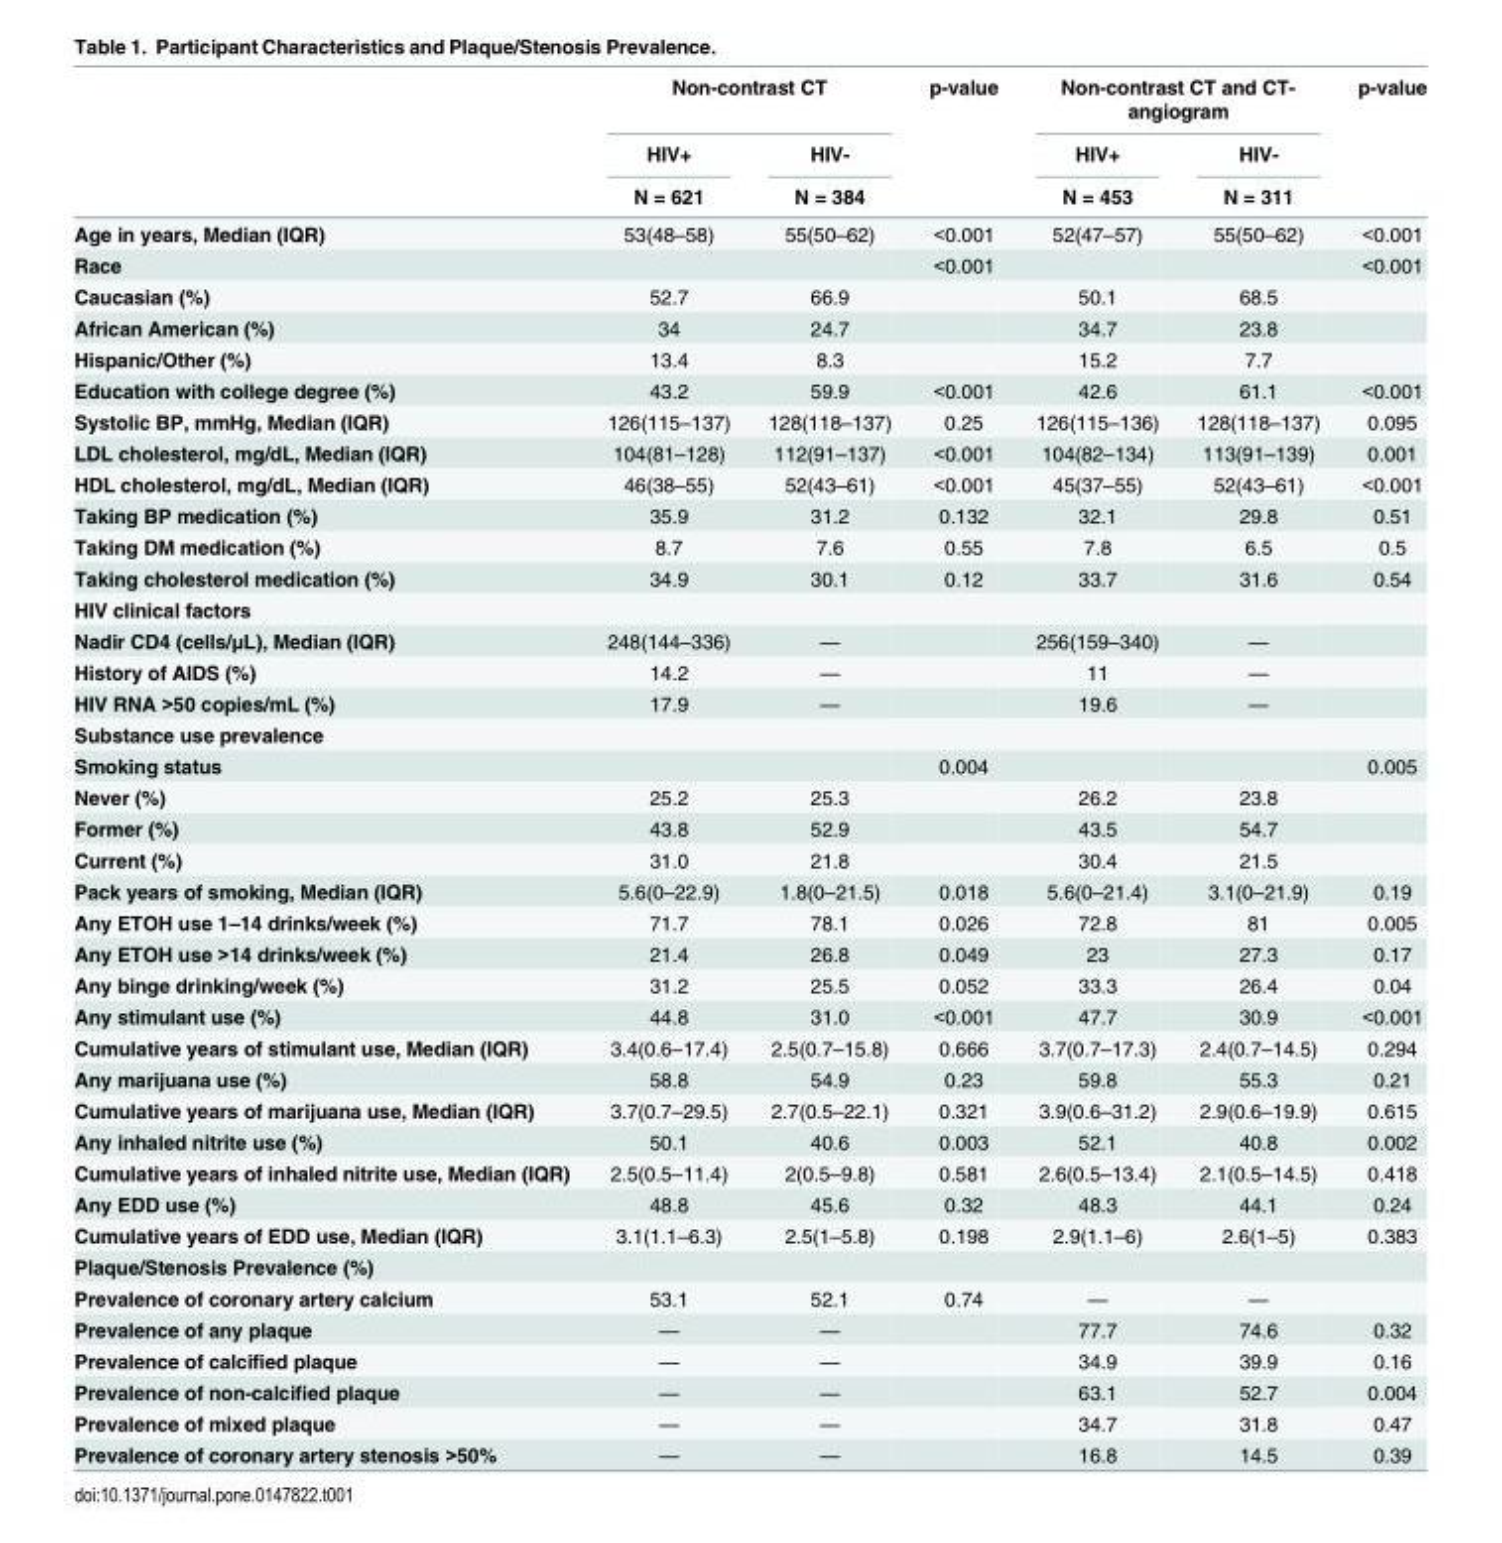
<table><thead><tr><td rowspan="3"></td><td colspan="2">Non-contrast CT</td><td rowspan="3">p-value</td><td colspan="2">Non-contrast CT and CT- angiogram</td><td rowspan="3">p-value</td></tr><tr><td rowspan="2">HIV+ N = 621</td><td rowspan="2">HIV- N = 384</td><td rowspan="2">HIV+ N = 453</td><td rowspan="2">HIV- N = 311</td></tr><tr></tr></thead><tbody><tr><td>Age in years, Median (IQR)</td><td>53(48–58)</td><td>55(50–62)</td><td>&lt;0.001</td><td>52(47–57)</td><td>55(50–62)</td><td>&lt;0.001</td></tr><tr><td>Race</td><td></td><td></td><td>&lt;0.001</td><td></td><td></td><td>&lt;0.001</td></tr><tr><td>Caucasian (%)</td><td>52.7</td><td>66.9</td><td></td><td>50.1</td><td>68.5</td><td></td></tr><tr><td>African American (%)</td><td>34</td><td>24.7</td><td></td><td>34.7</td><td>23.8</td><td></td></tr><tr><td>Hispanic/Other (%)</td><td>13.4</td><td>8.3</td><td></td><td>15.2</td><td>7.7</td><td></td></tr><tr><td>Education with college degree (%)</td><td>43.2</td><td>59.9</td><td>&lt;0.001</td><td>42.6</td><td>61.1</td><td>&lt;0.001</td></tr><tr><td>Systolic BP, mmHg, Median (IQR)</td><td>126(115–137)</td><td>128(118–137)</td><td>0.25</td><td>126(115–136)</td><td>128(118–137)</td><td>0.095</td></tr><tr><td>LDL cholesterol, mg/dL, Median (IQR)</td><td>104(81–128)</td><td>112(91–137)</td><td>&lt;0.001</td><td>104(82–134)</td><td>113(91–139)</td><td>0.001</td></tr><tr><td>HDL cholesterol, mg/dL, Median (IQR)</td><td>46(38–55)</td><td>52(43–61)</td><td>&lt;0.001</td><td>45(37–55)</td><td>52(43–61)</td><td>&lt;0.001</td></tr><tr><td>Taking BP medication (%)</td><td>35.9</td><td>31.2</td><td>0.132</td><td>32.1</td><td>29.8</td><td>0.51</td></tr><tr><td>Taking DM medication (%)</td><td>8.7</td><td>7.6</td><td>0.55</td><td>7.8</td><td>6.5</td><td>0.5</td></tr><tr><td>Taking cholesterol medication (%)</td><td>34.9</td><td>30.1</td><td>0.12</td><td>33.7</td><td>31.6</td><td>0.54</td></tr><tr><td colspan="7">HIV clinical factors</td></tr><tr><td>Nadir CD4 (cells/μL), Median (IQR)</td><td>248(144–336)</td><td>—</td><td></td><td>256(159–340)</td><td>—</td><td></td></tr><tr><td>History of AIDS (%)</td><td>14.2</td><td>—</td><td></td><td>11</td><td>—</td><td></td></tr><tr><td>HIV RNA &gt;50 copies/mL (%)</td><td>17.9</td><td>—</td><td></td><td>19.6</td><td>—</td><td></td></tr><tr><td colspan="7">Substance use prevalence</td></tr><tr><td>Smoking status</td><td></td><td></td><td>0.004</td><td></td><td></td><td>0.005</td></tr><tr><td>Never (%)</td><td>25.2</td><td>25.3</td><td></td><td>26.2</td><td>23.8</td><td></td></tr><tr><td>Former (%)</td><td>43.8</td><td>52.9</td><td></td><td>43.5</td><td>54.7</td><td></td></tr><tr><td>Current (%)</td><td>31.0</td><td>21.8</td><td></td><td>30.4</td><td>21.5</td><td></td></tr><tr><td>Pack years of smoking, Median (IQR)</td><td>5.6(0–22.9)</td><td>1.8(0–21.5)</td><td>0.018</td><td>5.6(0–21.4)</td><td>3.1(0–21.9)</td><td>0.19</td></tr><tr><td>Any ETOH use 1–14 drinks/week (%)</td><td>71.7</td><td>78.1</td><td>0.026</td><td>72.8</td><td>81</td><td>0.005</td></tr><tr><td>Any ETOH use &gt;14 drinks/week (%)</td><td>21.4</td><td>26.8</td><td>0.049</td><td>23</td><td>27.3</td><td>0.17</td></tr><tr><td>Any binge drinking/week (%)</td><td>31.2</td><td>25.5</td><td>0.052</td><td>33.3</td><td>26.4</td><td>0.04</td></tr><tr><td>Any stimulant use (%)</td><td>44.8</td><td>31.0</td><td>&lt;0.001</td><td>47.7</td><td>30.9</td><td>&lt;0.001</td></tr><tr><td>Cumulative years of stimulant use, Median (IQR)</td><td>3.4(0.6–17.4)</td><td>2.5(0.7–15.8)</td><td>0.666</td><td>3.7(0.7–17.3)</td><td>2.4(0.7–14.5)</td><td>0.294</td></tr><tr><td>Any marijuana use (%)</td><td>58.8</td><td>54.9</td><td>0.23</td><td>59.8</td><td>55.3</td><td>0.21</td></tr><tr><td>Cumulative years of marijuana use, Median (IQR)</td><td>3.7(0.7–29.5)</td><td>2.7(0.5–22.1)</td><td>0.321</td><td>3.9(0.6–31.2)</td><td>2.9(0.6–19.9)</td><td>0.615</td></tr><tr><td>Any inhaled nitrite use (%)</td><td>50.1</td><td>40.6</td><td>0.003</td><td>52.1</td><td>40.8</td><td>0.002</td></tr><tr><td>Cumulative years of inhaled nitrite use, Median (IQR)</td><td>2.5(0.5–11.4)</td><td>2(0.5–9.8)</td><td>0.581</td><td>2.6(0.5–13.4)</td><td>2.1(0.5–14.5)</td><td>0.418</td></tr><tr><td>Any EDD use (%)</td><td>48.8</td><td>45.6</td><td>0.32</td><td>48.3</td><td>44.1</td><td>0.24</td></tr><tr><td>Cumulative years of EDD use, Median (IQR)</td><td>3.1(1.1–6.3)</td><td>2.5(1–5.8)</td><td>0.198</td><td>2.9(1.1–6)</td><td>2.6(1–5)</td><td>0.383</td></tr><tr><td colspan="7">Plaque/Stenosis Prevalence (%)</td></tr><tr><td>Prevalence of coronary artery calcium</td><td>53.1</td><td>52.1</td><td>0.74</td><td>—</td><td>—</td><td></td></tr><tr><td>Prevalence of any plaque</td><td>—</td><td>—</td><td></td><td>77.7</td><td>74.6</td><td>0.32</td></tr><tr><td>Prevalence of calcified plaque</td><td>—</td><td>—</td><td></td><td>34.9</td><td>39.9</td><td>0.16</td></tr><tr><td>Prevalence of non-calcified plaque</td><td>—</td><td>—</td><td></td><td>63.1</td><td>52.7</td><td>0.004</td></tr><tr><td>Prevalence of mixed plaque</td><td>—</td><td>—</td><td></td><td>34.7</td><td>31.8</td><td>0.47</td></tr><tr><td>Prevalence of coronary artery stenosis &gt;50%</td><td>—</td><td>—</td><td></td><td>16.8</td><td>14.5</td><td>0.39</td></tr></tbody></table>